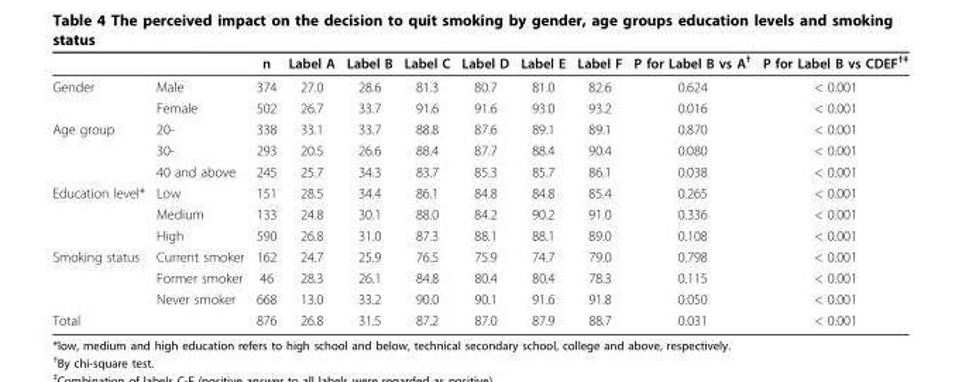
<table><thead><tr><td></td><td></td><td>n</td><td>Label A</td><td>Label B</td><td>Label C</td><td>Label D</td><td>Label E</td><td>Label F</td><td>P for Label B vs A<sup>†</sup></td><td>P for Label B vs CDEF<sup>†‡</sup></td></tr></thead><tbody><tr><td rowspan="2">Gender</td><td>Male</td><td>374</td><td>27.0</td><td>28.6</td><td>81.3</td><td>80.7</td><td>81.0</td><td>82.6</td><td>0.624</td><td>&lt; 0.001</td></tr><tr><td>Female</td><td>502</td><td>26.7</td><td>33.7</td><td>91.6</td><td>91.6</td><td>93.0</td><td>93.2</td><td>0.016</td><td>&lt; 0.001</td></tr><tr><td rowspan="3">Age group</td><td>20-</td><td>338</td><td>33.1</td><td>33.7</td><td>88.8</td><td>87.6</td><td>89.1</td><td>89.1</td><td>0.870</td><td>&lt; 0.001</td></tr><tr><td>30-</td><td>293</td><td>20.5</td><td>26.6</td><td>88.4</td><td>87.7</td><td>88.4</td><td>90.4</td><td>0.080</td><td>&lt; 0.001</td></tr><tr><td>40 and above</td><td>245</td><td>25.7</td><td>34.3</td><td>83.7</td><td>85.3</td><td>85.7</td><td>86.1</td><td>0.038</td><td>&lt; 0.001</td></tr><tr><td rowspan="3">Education level*</td><td>Low</td><td>151</td><td>28.5</td><td>34.4</td><td>86.1</td><td>84.8</td><td>84.8</td><td>85.4</td><td>0.265</td><td>&lt; 0.001</td></tr><tr><td>Medium</td><td>133</td><td>24.8</td><td>30.1</td><td>88.0</td><td>84.2</td><td>90.2</td><td>91.0</td><td>0.336</td><td>&lt; 0.001</td></tr><tr><td>High</td><td>590</td><td>26.8</td><td>31.0</td><td>87.3</td><td>88.1</td><td>88.1</td><td>89.0</td><td>0.108</td><td>&lt; 0.001</td></tr><tr><td rowspan="3">Smoking status</td><td>Current smoker</td><td>162</td><td>24.7</td><td>25.9</td><td>76.5</td><td>75.9</td><td>74.7</td><td>79.0</td><td>0.798</td><td>&lt; 0.001</td></tr><tr><td>Former smoker</td><td>46</td><td>28.3</td><td>26.1</td><td>84.8</td><td>80.4</td><td>80.4</td><td>78.3</td><td>0.115</td><td>&lt; 0.001</td></tr><tr><td>Never smoker</td><td>668</td><td>13.0</td><td>33.2</td><td>90.0</td><td>90.1</td><td>91.6</td><td>91.8</td><td>0.050</td><td>&lt; 0.001</td></tr><tr><td>Total</td><td></td><td>876</td><td>26.8</td><td>31.5</td><td>87.2</td><td>87.0</td><td>87.9</td><td>88.7</td><td>0.031</td><td>&lt; 0.001</td></tr></tbody></table>